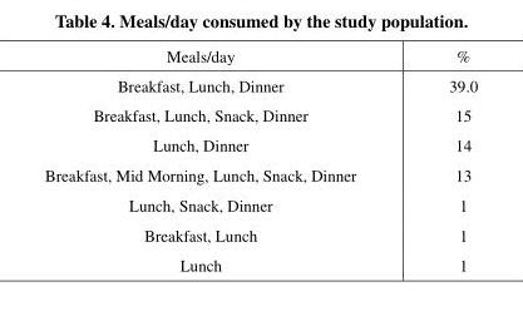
<table><thead><tr><td>Meals/day</td><td>%</td></tr></thead><tbody><tr><td>Breakfast, Lunch, Dinner</td><td>39.0</td></tr><tr><td>Breakfast, Lunch, Snack, Dinner</td><td>15</td></tr><tr><td>Lunch, Dinner</td><td>14</td></tr><tr><td>Breakfast, Mid Morning, Lunch, Snack, Dinner</td><td>13</td></tr><tr><td>Lunch, Snack, Dinner</td><td>1</td></tr><tr><td>Breakfast, Lunch</td><td>1</td></tr><tr><td>Lunch</td><td>1</td></tr></tbody></table>